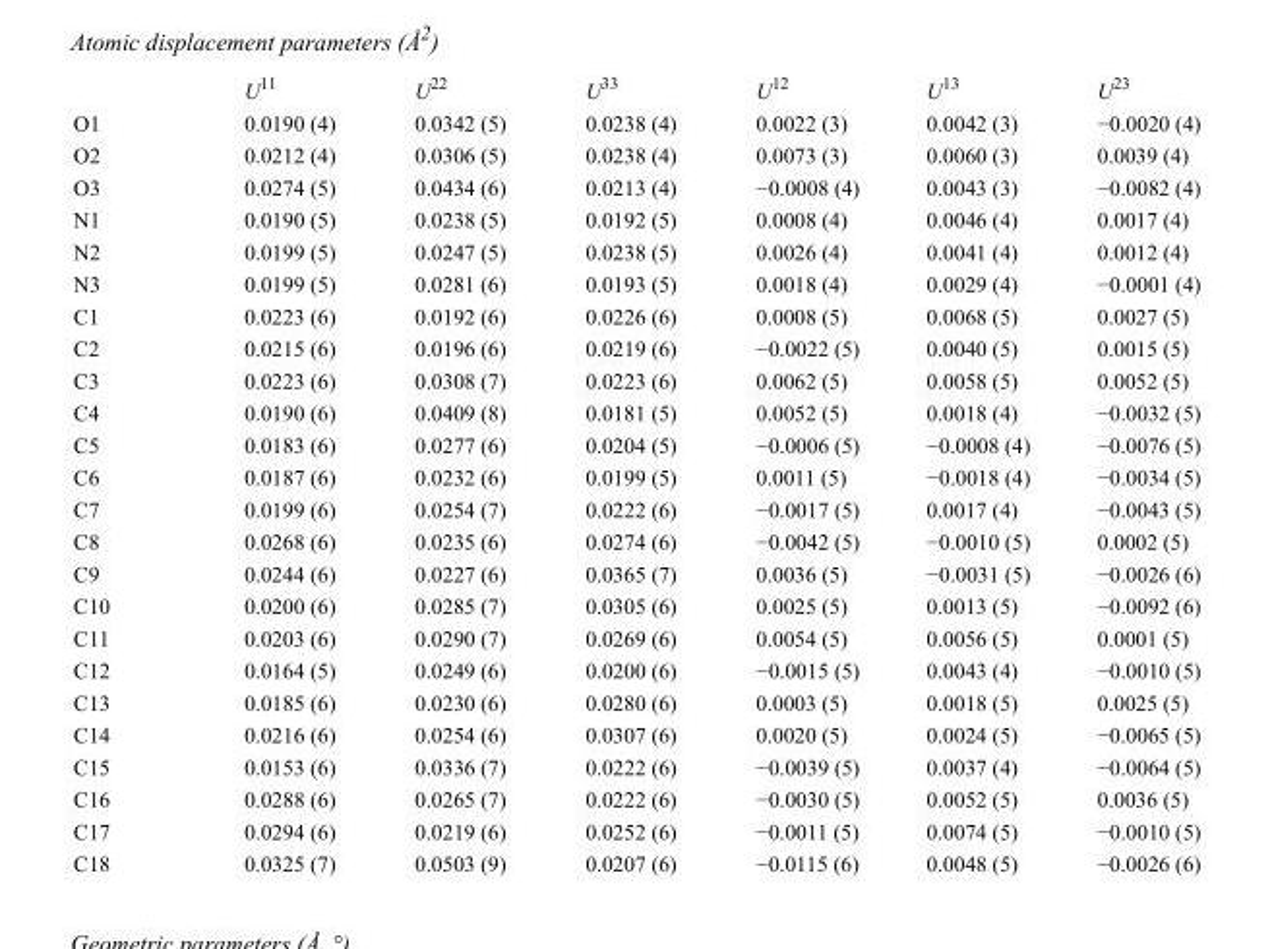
<table><thead><tr><td></td><td>U<sup>11</sup></td><td>U<sup>22</sup></td><td>U<sup>33</sup></td><td>U<sup>12</sup></td><td>U<sup>13</sup></td><td>U<sup>23</sup></td></tr></thead><tbody><tr><td>O1</td><td>0.0190 (4)</td><td>0.0342 (5)</td><td>0.0238 (4)</td><td>0.0022 (3)</td><td>0.0042 (3)</td><td>−0.0020 (4)</td></tr><tr><td>O2</td><td>0.0212 (4)</td><td>0.0306 (5)</td><td>0.0238 (4)</td><td>0.0073 (3)</td><td>0.0060 (3)</td><td>0.0039 (4)</td></tr><tr><td>O3</td><td>0.0274 (5)</td><td>0.0434 (6)</td><td>0.0213 (4)</td><td>−0.0008 (4)</td><td>0.0043 (3)</td><td>−0.0082 (4)</td></tr><tr><td>N1</td><td>0.0190 (5)</td><td>0.0238 (5)</td><td>0.0192 (5)</td><td>0.0008 (4)</td><td>0.0046 (4)</td><td>0.0017 (4)</td></tr><tr><td>N2</td><td>0.0199 (5)</td><td>0.0247 (5)</td><td>0.0238 (5)</td><td>0.0026 (4)</td><td>0.0041 (4)</td><td>0.0012 (4)</td></tr><tr><td>N3</td><td>0.0199 (5)</td><td>0.0281 (6)</td><td>0.0193 (5)</td><td>0.0018 (4)</td><td>0.0029 (4)</td><td>−0.0001 (4)</td></tr><tr><td>C1</td><td>0.0223 (6)</td><td>0.0192 (6)</td><td>0.0226 (6)</td><td>0.0008 (5)</td><td>0.0068 (5)</td><td>0.0027 (5)</td></tr><tr><td>C2</td><td>0.0215 (6)</td><td>0.0196 (6)</td><td>0.0219 (6)</td><td>−0.0022 (5)</td><td>0.0040 (5)</td><td>0.0015 (5)</td></tr><tr><td>C3</td><td>0.0223 (6)</td><td>0.0308 (7)</td><td>0.0223 (6)</td><td>0.0062 (5)</td><td>0.0058 (5)</td><td>0.0052 (5)</td></tr><tr><td>C4</td><td>0.0190 (6)</td><td>0.0409 (8)</td><td>0.0181 (5)</td><td>0.0052 (5)</td><td>0.0018 (4)</td><td>−0.0032 (5)</td></tr><tr><td>C5</td><td>0.0183 (6)</td><td>0.0277 (6)</td><td>0.0204 (5)</td><td>−0.0006 (5)</td><td>−0.0008 (4)</td><td>−0.0076 (5)</td></tr><tr><td>C6</td><td>0.0187 (6)</td><td>0.0232 (6)</td><td>0.0199 (5)</td><td>0.0011 (5)</td><td>−0.0018 (4)</td><td>−0.0034 (5)</td></tr><tr><td>C7</td><td>0.0199 (6)</td><td>0.0254 (7)</td><td>0.0222 (6)</td><td>−0.0017 (5)</td><td>0.0017 (4)</td><td>−0.0043 (5)</td></tr><tr><td>C8</td><td>0.0268 (6)</td><td>0.0235 (6)</td><td>0.0274 (6)</td><td>−0.0042 (5)</td><td>−0.0010 (5)</td><td>0.0002 (5)</td></tr><tr><td>C9</td><td>0.0244 (6)</td><td>0.0227 (6)</td><td>0.0365 (7)</td><td>0.0036 (5)</td><td>−0.0031 (5)</td><td>−0.0026 (6)</td></tr><tr><td>C10</td><td>0.0200 (6)</td><td>0.0285 (7)</td><td>0.0305 (6)</td><td>0.0025 (5)</td><td>0.0013 (5)</td><td>−0.0092 (6)</td></tr><tr><td>C11</td><td>0.0203 (6)</td><td>0.0290 (7)</td><td>0.0269 (6)</td><td>0.0054 (5)</td><td>0.0056 (5)</td><td>0.0001 (5)</td></tr><tr><td>C12</td><td>0.0164 (5)</td><td>0.0249 (6)</td><td>0.0200 (6)</td><td>−0.0015 (5)</td><td>0.0043 (4)</td><td>−0.0010 (5)</td></tr><tr><td>C13</td><td>0.0185 (6)</td><td>0.0230 (6)</td><td>0.0280 (6)</td><td>0.0003 (5)</td><td>0.0018 (5)</td><td>0.0025 (5)</td></tr><tr><td>C14</td><td>0.0216 (6)</td><td>0.0254 (6)</td><td>0.0307 (6)</td><td>0.0020 (5)</td><td>0.0024 (5)</td><td>−0.0065 (5)</td></tr><tr><td>C15</td><td>0.0153 (6)</td><td>0.0336 (7)</td><td>0.0222 (6)</td><td>−0.0039 (5)</td><td>0.0037 (4)</td><td>−0.0064 (5)</td></tr><tr><td>C16</td><td>0.0288 (6)</td><td>0.0265 (7)</td><td>0.0222 (6)</td><td>−0.0030 (5)</td><td>0.0052 (5)</td><td>0.0036 (5)</td></tr><tr><td>C17</td><td>0.0294 (6)</td><td>0.0219 (6)</td><td>0.0252 (6)</td><td>−0.0011 (5)</td><td>0.0074 (5)</td><td>−0.0010 (5)</td></tr><tr><td>C18</td><td>0.0325 (7)</td><td>0.0503 (9)</td><td>0.0207 (6)</td><td>−0.0115 (6)</td><td>0.0048 (5)</td><td>−0.0026 (6)</td></tr></tbody></table>